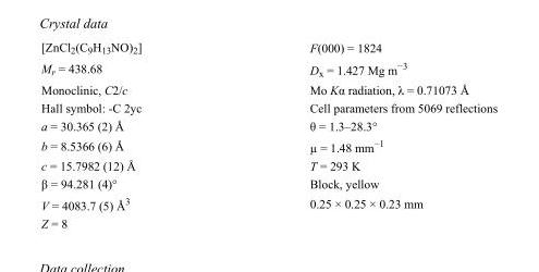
<table><tbody><tr><td>[ZnCl<sub>2</sub>(C<sub>9</sub>H<sub>13</sub>NO)<sub>2</sub>]</td><td>F(000) = 1824</td></tr><tr><td>M<sub>r</sub> = 438.68</td><td>D<sub>x</sub> = 1.427 Mg m<sup>−3</sup></td></tr><tr><td>Monoclinic, C2/c</td><td>Mo Kα radiation, λ = 0.71073 Å</td></tr><tr><td>Hall symbol: -C 2yc</td><td>Cell parameters from 5069 reflections</td></tr><tr><td>a = 30.365 (2) Å</td><td>θ = 1.3–28.3°</td></tr><tr><td>b = 8.5366 (6) Å</td><td>µ = 1.48 mm<sup>−1</sup></td></tr><tr><td>c = 15.7982 (12) Å</td><td>T = 293 K</td></tr><tr><td>β = 94.281 (4)°</td><td>Block, yellow</td></tr><tr><td>V = 4083.7 (5) Å<sup>3</sup></td><td>0.25 × 0.25 × 0.23 mm</td></tr><tr><td>Z = 8</td><td></td></tr></tbody></table>